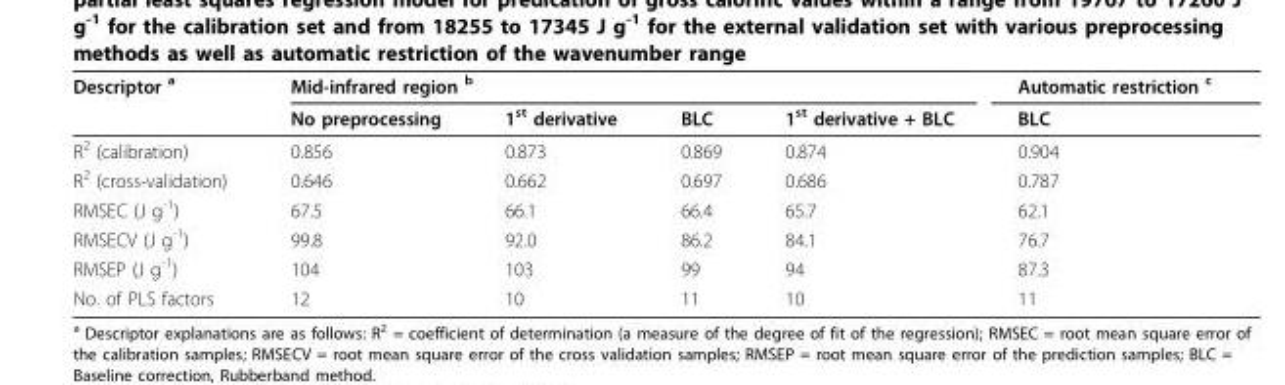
<table><thead><tr><td rowspan="2">Descriptor <sup>a</sup></td><td colspan="4">Mid-infrared region <sup>b</sup></td><td rowspan="2">Automatic restriction <sup>c</sup> BLC</td></tr><tr><td>No preprocessing</td><td>1<sup>st</sup> derivative</td><td>BLC</td><td>1<sup>st</sup> derivative + BLC</td></tr></thead><tbody><tr><td>R<sup>2</sup> (calibration)</td><td>0.856</td><td>0.873</td><td>0.869</td><td>0.874</td><td>0.904</td></tr><tr><td>R<sup>2</sup> (cross-validation)</td><td>0.646</td><td>0.662</td><td>0.697</td><td>0.686</td><td>0.787</td></tr><tr><td>RMSEC (J g<sup>-1</sup>)</td><td>67.5</td><td>66.1</td><td>66.4</td><td>65.7</td><td>62.1</td></tr><tr><td>RMSECV (J g<sup>-1</sup>)</td><td>99.8</td><td>92.0</td><td>86.2</td><td>84.1</td><td>76.7</td></tr><tr><td>RMSEP (J g<sup>-1</sup>)</td><td>104</td><td>103</td><td>99</td><td>94</td><td>87.3</td></tr><tr><td>No. of PLS factors</td><td>12</td><td>10</td><td>11</td><td>10</td><td>11</td></tr></tbody></table>